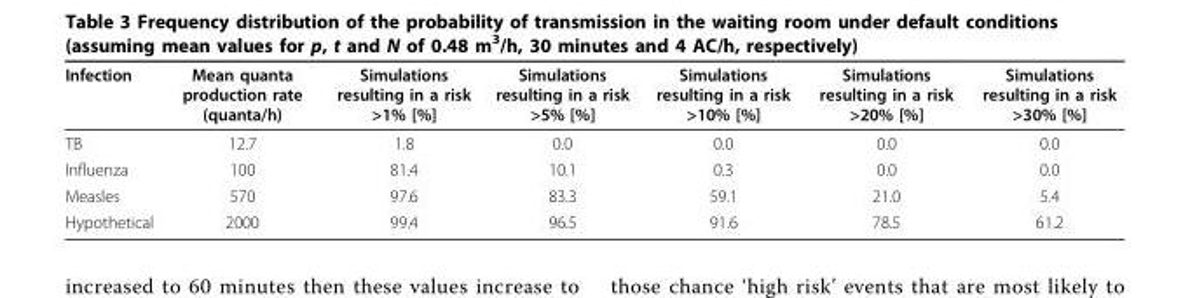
<table><thead><tr><td>Infection</td><td>Mean quanta production rate (quanta/h)</td><td>Simulations resulting in a risk &gt;1% [%]</td><td>Simulations resulting in a risk &gt;5% [%]</td><td>Simulations resulting in a risk &gt;10% [%]</td><td>Simulations resulting in a risk &gt;20% [%]</td><td>Simulations resulting in a risk &gt;30% [%]</td></tr></thead><tbody><tr><td>TB</td><td>12.7</td><td>1.8</td><td>0.0</td><td>0.0</td><td>0.0</td><td>0.0</td></tr><tr><td>Influenza</td><td>100</td><td>81.4</td><td>10.1</td><td>0.3</td><td>0.0</td><td>0.0</td></tr><tr><td>Measles</td><td>570</td><td>97.6</td><td>83.3</td><td>59.1</td><td>21.0</td><td>5.4</td></tr><tr><td>Hypothetical</td><td>2000</td><td>99.4</td><td>96.5</td><td>91.6</td><td>78.5</td><td>61.2</td></tr></tbody></table>